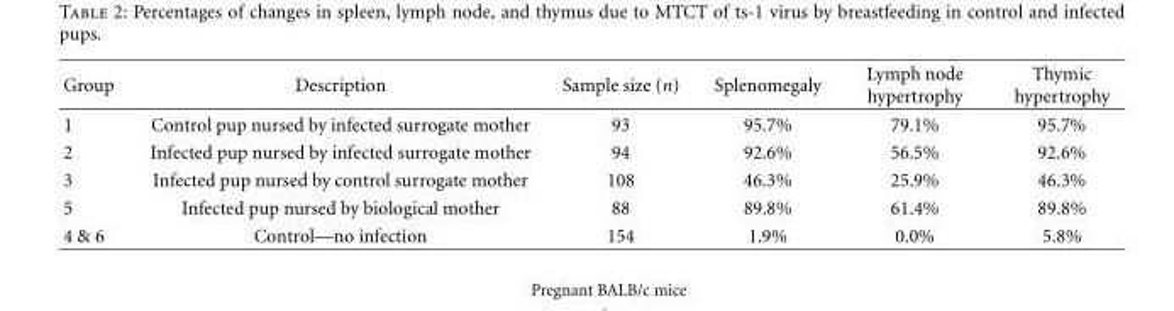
<table><thead><tr><td>Group</td><td>Description</td><td>Sample size (n)</td><td>Splenomegaly</td><td>Lymph node hypertrophy</td><td>Thymic hypertrophy</td></tr></thead><tbody><tr><td>1</td><td>Control pup nursed by infected surrogate mother</td><td>93</td><td>95.7%</td><td>79.1%</td><td>95.7%</td></tr><tr><td>2</td><td>Infected pup nursed by infected surrogate mother</td><td>94</td><td>92.6%</td><td>56.5%</td><td>92.6%</td></tr><tr><td>3</td><td>Infected pup nursed by control surrogate mother</td><td>108</td><td>46.3%</td><td>25.9%</td><td>46.3%</td></tr><tr><td>5</td><td>Infected pup nursed by biological mother</td><td>88</td><td>89.8%</td><td>61.4%</td><td>89.8%</td></tr><tr><td>4 &amp; 6</td><td>Control—no infection</td><td>154</td><td>1.9%</td><td>0.0%</td><td>5.8%</td></tr></tbody></table>